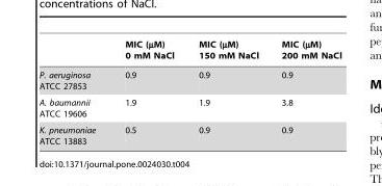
<table><thead><tr><td></td><td>MIC (µM) 0 mM NaCl</td><td>MIC (µM) 150 mM NaCl</td><td>MIC (µM) 200 mM NaCl</td></tr></thead><tbody><tr><td>P. aeruginosa ATCC 27853</td><td>0.9</td><td>0.9</td><td>0.9</td></tr><tr><td>A. baumannii ATCC 19606</td><td>1.9</td><td>1.9</td><td>3.8</td></tr><tr><td>K. pneumoniae ATCC 13883</td><td>0.5</td><td>0.9</td><td>0.9</td></tr></tbody></table>